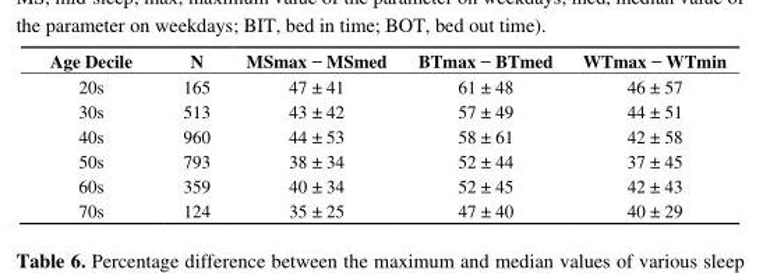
<table><thead><tr><td>Age Decile</td><td>N</td><td>MSmax − MSmed</td><td>BTmax − BTmed</td><td>WTmax − WTmin</td></tr></thead><tbody><tr><td>20s</td><td>165</td><td>47 ± 41</td><td>61 ± 48</td><td>46 ± 57</td></tr><tr><td>30s</td><td>513</td><td>43 ± 42</td><td>57 ± 49</td><td>44 ± 51</td></tr><tr><td>40s</td><td>960</td><td>44 ± 53</td><td>58 ± 61</td><td>42 ± 58</td></tr><tr><td>50s</td><td>793</td><td>38 ± 34</td><td>52 ± 44</td><td>37 ± 45</td></tr><tr><td>60s</td><td>359</td><td>40 ± 34</td><td>52 ± 45</td><td>42 ± 43</td></tr><tr><td>70s</td><td>124</td><td>35 ± 25</td><td>47 ± 40</td><td>40 ± 29</td></tr></tbody></table>